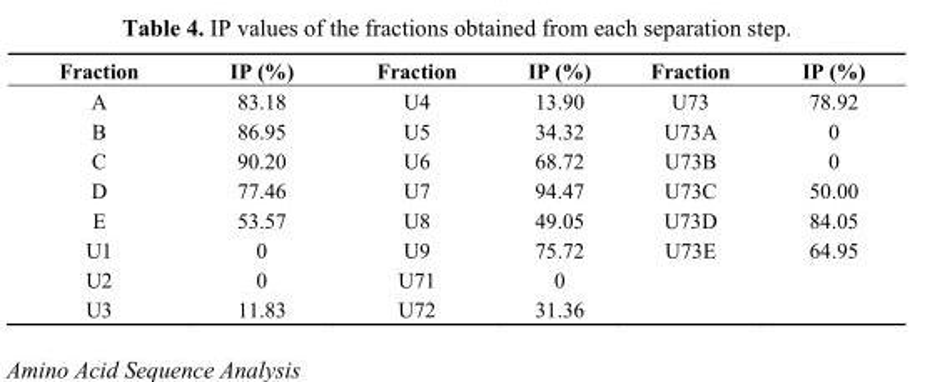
<table><thead><tr><td>Fraction</td><td>IP (%)</td><td>Fraction</td><td>IP (%)</td><td>Fraction</td><td>IP (%)</td></tr></thead><tbody><tr><td>A</td><td>83.18</td><td>U4</td><td>13.90</td><td>U73</td><td>78.92</td></tr><tr><td>B</td><td>86.95</td><td>U5</td><td>34.32</td><td>U73A</td><td>0</td></tr><tr><td>C</td><td>90.20</td><td>U6</td><td>68.72</td><td>U73B</td><td>0</td></tr><tr><td>D</td><td>77.46</td><td>U7</td><td>94.47</td><td>U73C</td><td>50.00</td></tr><tr><td>E</td><td>53.57</td><td>U8</td><td>49.05</td><td>U73D</td><td>84.05</td></tr><tr><td>U1</td><td>0</td><td>U9</td><td>75.72</td><td>U73E</td><td>64.95</td></tr><tr><td>U2</td><td>0</td><td>U71</td><td>0</td><td></td><td></td></tr><tr><td>U3</td><td>11.83</td><td>U72</td><td>31.36</td><td></td><td></td></tr></tbody></table>